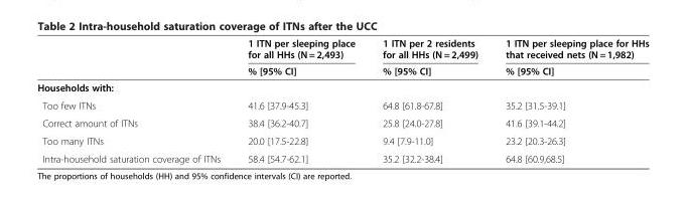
<table><thead><tr><td rowspan="2"></td><td rowspan="2">1 ITN per sleeping place for all HHs (N = 2,493) % [95% CI]</td><td rowspan="2">1 ITN per 2 residents for all HHs (N = 2,499) % [95% CI]</td><td rowspan="2">1 ITN per sleeping place for HHs that received nets (N = 1,982) % [95% CI]</td></tr><tr></tr></thead><tbody><tr><td colspan="4">Households with:</td></tr><tr><td>Too few ITNs</td><td>41.6 [37.9-45.3]</td><td>64.8 [61.8-67.8]</td><td>35.2 [31.5-39.1]</td></tr><tr><td>Correct amount of ITNs</td><td>38.4 [36.2-40.7]</td><td>25.8 [24.0-27.8]</td><td>41.6 [39.1-44.2]</td></tr><tr><td>Too many ITNs</td><td>20.0 [17.5-22.8]</td><td>9.4 [7.9-11.0]</td><td>23.2 [20.3-26.3]</td></tr><tr><td>Intra-household saturation coverage of ITNs</td><td>58.4 [54.7-62.1]</td><td>35.2 [32.2-38.4]</td><td>64.8 [60.9,68.5]</td></tr></tbody></table>